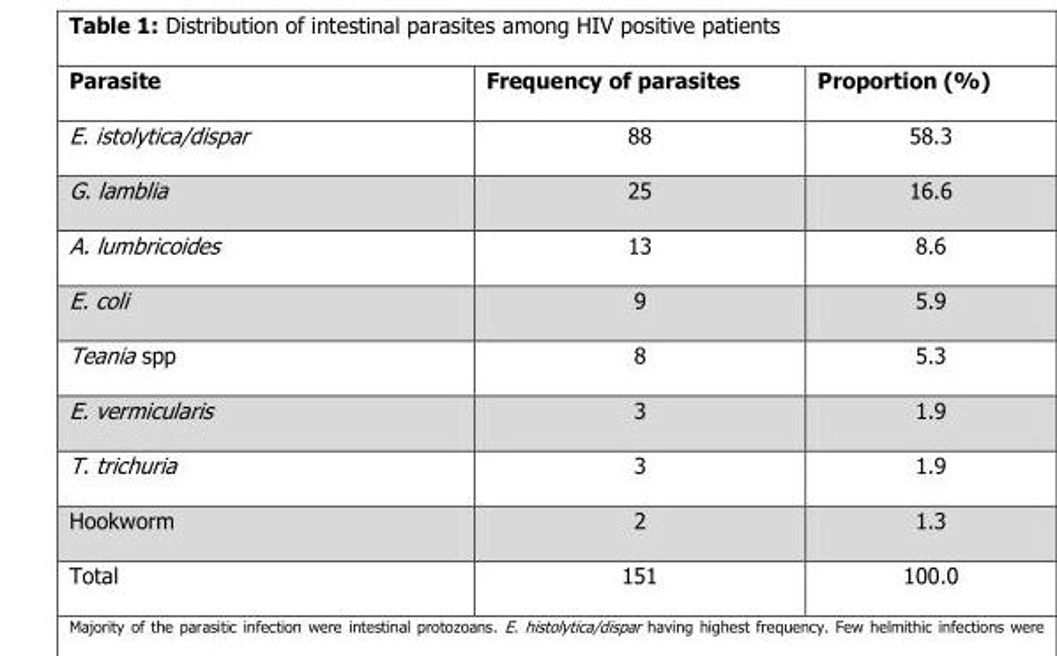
<table><thead><tr><td>Parasite</td><td>Frequency of parasites</td><td>Proportion (%)</td></tr></thead><tbody><tr><td>E. istolytica/dispar</td><td>88</td><td>58.3</td></tr><tr><td>G. lamblia</td><td>25</td><td>16.6</td></tr><tr><td>A. lumbricoides</td><td>13</td><td>8.6</td></tr><tr><td>E. coli</td><td>9</td><td>5.9</td></tr><tr><td>Teania spp</td><td>8</td><td>5.3</td></tr><tr><td>E. vermicularis</td><td>3</td><td>1.9</td></tr><tr><td>T. trichuria</td><td>3</td><td>1.9</td></tr><tr><td>Hookworm</td><td>2</td><td>1.3</td></tr><tr><td>Total</td><td>151</td><td>100.0</td></tr></tbody></table>